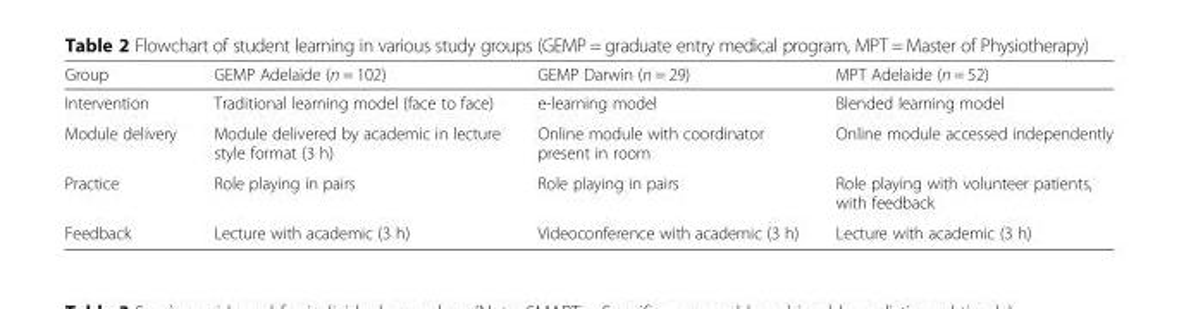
<table><thead><tr><td>Group</td><td>GEMP Adelaide (n = 102)</td><td>GEMP Darwin (n = 29)</td><td>MPT Adelaide (n = 52)</td></tr></thead><tbody><tr><td>Intervention</td><td>Traditional learning model (face to face)</td><td>e-learning model</td><td>Blended learning model</td></tr><tr><td>Module delivery</td><td>Module delivered by academic in lecture style format (3 h)</td><td>Online module with coordinator present in room</td><td>Online module accessed independently</td></tr><tr><td>Practice</td><td>Role playing in pairs</td><td>Role playing in pairs</td><td>Role playing with volunteer patients, with feedback</td></tr><tr><td>Feedback</td><td>Lecture with academic (3 h)</td><td>Videoconference with academic (3 h)</td><td>Lecture with academic (3 h)</td></tr></tbody></table>